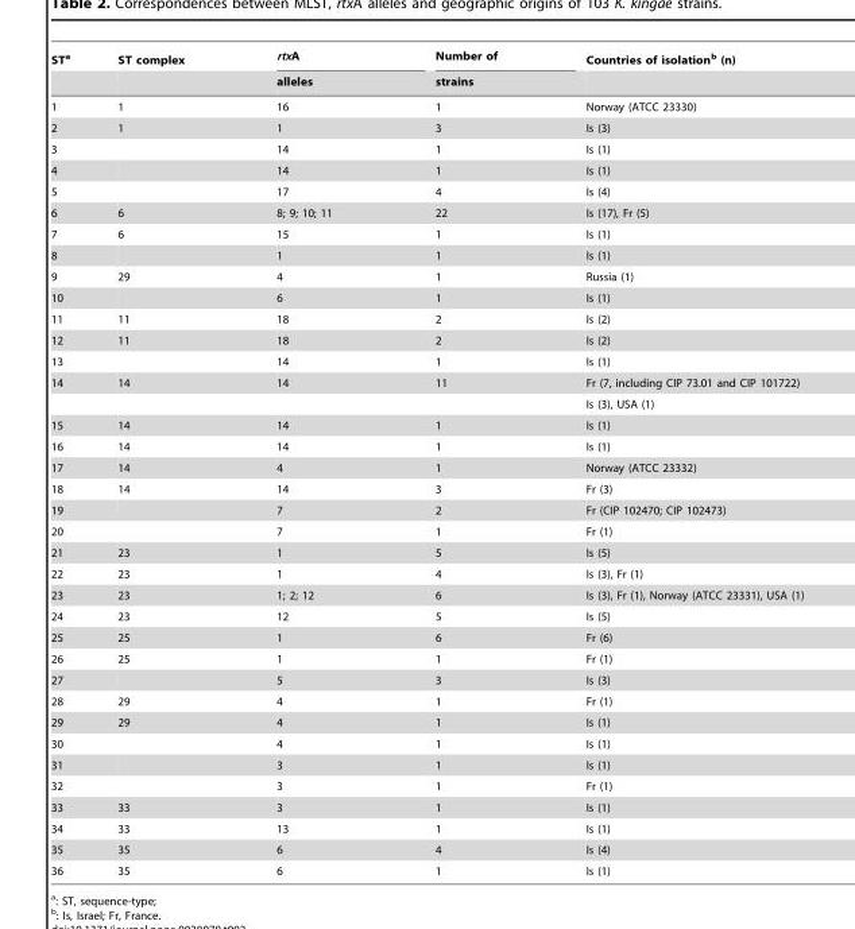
<table><thead><tr><td rowspan="2">ST<sup>a</sup></td><td rowspan="2">ST complex</td><td rowspan="2">rtxA alleles</td><td rowspan="2">Number of strains</td><td rowspan="2">Countries of isolation<sup>b</sup> (n)</td></tr><tr></tr></thead><tbody><tr><td>1</td><td>1</td><td>16</td><td>1</td><td>Norway (ATCC 23330)</td></tr><tr><td>2</td><td>1</td><td>1</td><td>3</td><td>Is (3)</td></tr><tr><td>3</td><td></td><td>14</td><td>1</td><td>Is (1)</td></tr><tr><td>4</td><td></td><td>14</td><td>1</td><td>Is (1)</td></tr><tr><td>5</td><td></td><td>17</td><td>4</td><td>Is (4)</td></tr><tr><td>6</td><td>6</td><td>8; 9; 10; 11</td><td>22</td><td>Is (17), Fr (5)</td></tr><tr><td>7</td><td>6</td><td>15</td><td>1</td><td>Is (1)</td></tr><tr><td>8</td><td></td><td>1</td><td>1</td><td>Is (1)</td></tr><tr><td>9</td><td>29</td><td>4</td><td>1</td><td>Russia (1)</td></tr><tr><td>10</td><td></td><td>6</td><td>1</td><td>Is (1)</td></tr><tr><td>11</td><td>11</td><td>18</td><td>2</td><td>Is (2)</td></tr><tr><td>12</td><td>11</td><td>18</td><td>2</td><td>Is (2)</td></tr><tr><td>13</td><td></td><td>14</td><td>1</td><td>Is (1)</td></tr><tr><td rowspan="2">14</td><td>14</td><td>14</td><td>11</td><td>Fr (7, including CIP 73.01 and CIP 101722)</td></tr><tr><td></td><td></td><td></td><td>Is (3), USA (1)</td></tr><tr><td>15</td><td>14</td><td>14</td><td>1</td><td>Is (1)</td></tr><tr><td>16</td><td>14</td><td>14</td><td>1</td><td>Is (1)</td></tr><tr><td>17</td><td>14</td><td>4</td><td>1</td><td>Norway (ATCC 23332)</td></tr><tr><td>18</td><td>14</td><td>14</td><td>3</td><td>Fr (3)</td></tr><tr><td>19</td><td></td><td>7</td><td>2</td><td>Fr (CIP 102470; CIP 102473)</td></tr><tr><td>20</td><td></td><td>7</td><td>1</td><td>Fr (1)</td></tr><tr><td>21</td><td>23</td><td>1</td><td>5</td><td>Is (5)</td></tr><tr><td>22</td><td>23</td><td>1</td><td>4</td><td>Is (3), Fr (1)</td></tr><tr><td>23</td><td>23</td><td>1; 2; 12</td><td>6</td><td>Is (3), Fr (1), Norway (ATCC 23331), USA (1)</td></tr><tr><td>24</td><td>23</td><td>12</td><td>5</td><td>Is (5)</td></tr><tr><td>25</td><td>25</td><td>1</td><td>6</td><td>Fr (6)</td></tr><tr><td>26</td><td>25</td><td>1</td><td>1</td><td>Fr (1)</td></tr><tr><td>27</td><td></td><td>5</td><td>3</td><td>Is (3)</td></tr><tr><td>28</td><td>29</td><td>4</td><td>1</td><td>Fr (1)</td></tr><tr><td>29</td><td>29</td><td>4</td><td>1</td><td>Is (1)</td></tr><tr><td>30</td><td></td><td>4</td><td>1</td><td>Is (1)</td></tr><tr><td>31</td><td></td><td>3</td><td>1</td><td>Is (1)</td></tr><tr><td>32</td><td></td><td>3</td><td>1</td><td>Fr (1)</td></tr><tr><td>33</td><td>33</td><td>3</td><td>1</td><td>Is (1)</td></tr><tr><td>34</td><td>33</td><td>13</td><td>1</td><td>Is (1)</td></tr><tr><td>35</td><td>35</td><td>6</td><td>4</td><td>Is (4)</td></tr><tr><td>36</td><td>35</td><td>6</td><td>1</td><td>Is (1)</td></tr></tbody></table>